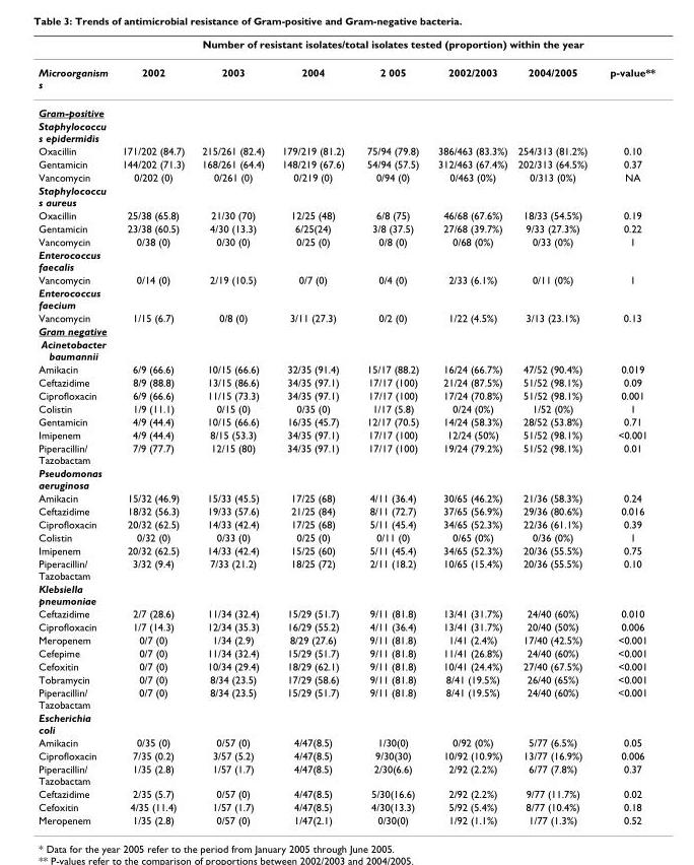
<table><thead><tr><td rowspan="2">Microorganism s</td><td colspan="7">Number of resistant isolates/total isolates tested (proportion) within the year</td></tr><tr><td>2002</td><td>2003</td><td>2004</td><td>2 005</td><td>2002/2003</td><td>2004/2005</td><td>p-value**</td></tr></thead><tbody><tr><td colspan="8">Gram-positive</td></tr><tr><td colspan="8">Staphylococcu s epidermidis</td></tr><tr><td>Oxacillin</td><td>171/202 (84.7)</td><td>215/261 (82.4)</td><td>179/219 (81.2)</td><td>75/94 (79.8)</td><td>386/463 (83.3%)</td><td>254/313 (81.2%)</td><td>0.10</td></tr><tr><td>Gentamicin</td><td>144/202 (71.3)</td><td>168/261 (64.4)</td><td>148/219 (67.6)</td><td>54/94 (57.5)</td><td>312/463 (67.4%)</td><td>202/313 (64.5%)</td><td>0.37</td></tr><tr><td>Vancomycin</td><td>0/202 (0)</td><td>0/261 (0)</td><td>0/219 (0)</td><td>0/94 (0)</td><td>0/463 (0%)</td><td>0/313 (0%)</td><td>NA</td></tr><tr><td colspan="8">Staphylococcu s aureus</td></tr><tr><td>Oxacillin</td><td>25/38 (65.8)</td><td>21/30 (70)</td><td>12/25 (48)</td><td>6/8 (75)</td><td>46/68 (67.6%)</td><td>18/33 (54.5%)</td><td>0.19</td></tr><tr><td>Gentamicin</td><td>23/38 (60.5)</td><td>4/30 (13.3)</td><td>6/25(24)</td><td>3/8 (37.5)</td><td>27/68 (39.7%)</td><td>9/33 (27.3%)</td><td>0.22</td></tr><tr><td>Vancomycin</td><td>0/38 (0)</td><td>0/30 (0)</td><td>0/25 (0)</td><td>0/8 (0)</td><td>0/68 (0%)</td><td>0/33 (0%)</td><td>1</td></tr><tr><td colspan="8">Enterococcus faecalis</td></tr><tr><td>Vancomycin</td><td>0/14 (0)</td><td>2/19 (10.5)</td><td>0/7 (0)</td><td>0/4 (0)</td><td>2/33 (6.1%)</td><td>0/11 (0%)</td><td>1</td></tr><tr><td colspan="8">Enterococcus faecium</td></tr><tr><td>Vancomycin</td><td>1/15 (6.7)</td><td>0/8 (0)</td><td>3/11 (27.3)</td><td>0/2 (0)</td><td>1/22 (4.5%)</td><td>3/13 (23.1%)</td><td>0.13</td></tr><tr><td colspan="8">Gram negative</td></tr><tr><td colspan="8">Acinetobacter baumannii</td></tr><tr><td>Amikacin</td><td>6/9 (66.6)</td><td>10/15 (66.6)</td><td>32/35 (91.4)</td><td>15/17 (88.2)</td><td>16/24 (66.7%)</td><td>47/52 (90.4%)</td><td>0.019</td></tr><tr><td>Ceftazidime</td><td>8/9 (88.8)</td><td>13/15 (86.6)</td><td>34/35 (97.1)</td><td>17/17 (100)</td><td>21/24 (87.5%)</td><td>51/52 (98.1%)</td><td>0.09</td></tr><tr><td>Ciprofloxacin</td><td>6/9 (66.6)</td><td>11/15 (73.3)</td><td>34/35 (97.1)</td><td>17/17 (100)</td><td>17/24 (70.8%)</td><td>51/52 (98.1%)</td><td>0.001</td></tr><tr><td>Colistin</td><td>1/9 (11.1)</td><td>0/15 (0)</td><td>0/35 (0)</td><td>1/17 (5.8)</td><td>0/24 (0%)</td><td>1/52 (0%)</td><td>1</td></tr><tr><td>Gentamicin</td><td>4/9 (44.4)</td><td>10/15 (66.6)</td><td>16/35 (45.7)</td><td>12/17 (70.5)</td><td>14/24 (58.3%)</td><td>28/52 (53.8%)</td><td>0.71</td></tr><tr><td>Imipenem</td><td>4/9 (44.4)</td><td>8/15 (53.3)</td><td>34/35 (97.1)</td><td>17/17 (100)</td><td>12/24 (50%)</td><td>51/52 (98.1%)</td><td>&lt;0.001</td></tr><tr><td>Piperacillin/ Tazobactam</td><td>7/9 (77.7)</td><td>12/15 (80)</td><td>34/35 (97.1)</td><td>17/17 (100)</td><td>19/24 (79.2%)</td><td>51/52 (98.1%)</td><td>0.01</td></tr><tr><td colspan="8">Pseudomonas aeruginosa</td></tr><tr><td>Amikacin</td><td>15/32 (46.9)</td><td>15/33 (45.5)</td><td>17/25 (68)</td><td>4/11 (36.4)</td><td>30/65 (46.2%)</td><td>21/36 (58.3%)</td><td>0.24</td></tr><tr><td>Ceftazidime</td><td>18/32 (56.3)</td><td>19/33 (57.6)</td><td>21/25 (84)</td><td>8/11 (72.7)</td><td>37/65 (56.9%)</td><td>29/36 (80.6%)</td><td>0.016</td></tr><tr><td>Ciprofloxacin</td><td>20/32 (62.5)</td><td>14/33 (42.4)</td><td>17/25 (68)</td><td>5/11 (45.4)</td><td>34/65 (52.3%)</td><td>22/36 (61.1%)</td><td>0.39</td></tr><tr><td>Colistin</td><td>0/32 (0)</td><td>0/33 (0)</td><td>0/25 (0)</td><td>0/11 (0)</td><td>0/65 (0%)</td><td>0/36 (0%)</td><td>1</td></tr><tr><td>Imipenem</td><td>20/32 (62.5)</td><td>14/33 (42.4)</td><td>15/25 (60)</td><td>5/11 (45.4)</td><td>34/65 (52.3%)</td><td>20/36 (55.5%)</td><td>0.75</td></tr><tr><td>Piperacillin/ Tazobactam</td><td>3/32 (9.4)</td><td>7/33 (21.2)</td><td>18/25 (72)</td><td>2/11 (18.2)</td><td>10/65 (15.4%)</td><td>20/36 (55.5%)</td><td>0.10</td></tr><tr><td colspan="8">Klebsiella pneumoniae</td></tr><tr><td>Ceftazidime</td><td>2/7 (28.6)</td><td>11/34 (32.4)</td><td>15/29 (51.7)</td><td>9/11 (81.8)</td><td>13/41 (31.7%)</td><td>24/40 (60%)</td><td>0.010</td></tr><tr><td>Ciprofloxacin</td><td>1/7 (14.3)</td><td>12/34 (35.3)</td><td>16/29 (55.2)</td><td>4/11 (36.4)</td><td>13/41 (31.7%)</td><td>20/40 (50%)</td><td>0.006</td></tr><tr><td>Meropenem</td><td>0/7 (0)</td><td>1/34 (2.9)</td><td>8/29 (27.6)</td><td>9/11 (81.8)</td><td>1/41 (2.4%)</td><td>17/40 (42.5%)</td><td>&lt;0.001</td></tr><tr><td>Cefepime</td><td>0/7 (0)</td><td>11/34 (32.4)</td><td>15/29 (51.7)</td><td>9/11 (81.8)</td><td>11/41 (26.8%)</td><td>24/40 (60%)</td><td>&lt;0.001</td></tr><tr><td>Cefoxitin</td><td>0/7 (0)</td><td>10/34 (29.4)</td><td>18/29 (62.1)</td><td>9/11 (81.8)</td><td>10/41 (24.4%)</td><td>27/40 (67.5%)</td><td>&lt;0.001</td></tr><tr><td>Tobramycin</td><td>0/7 (0)</td><td>8/34 (23.5)</td><td>17/29 (58.6)</td><td>9/11 (81.8)</td><td>8/41 (19.5%)</td><td>26/40 (65%)</td><td>&lt;0.001</td></tr><tr><td>Piperacillin/ Tazobactam</td><td>0/7 (0)</td><td>8/34 (23.5)</td><td>15/29 (51.7)</td><td>9/11 (81.8)</td><td>8/41 (19.5%)</td><td>24/40 (60%)</td><td>&lt;0.001</td></tr><tr><td colspan="8">Escherichia coli</td></tr><tr><td>Amikacin</td><td>0/35 (0)</td><td>0/57 (0)</td><td>4/47(8.5)</td><td>1/30(0)</td><td>0/92 (0%)</td><td>5/77 (6.5%)</td><td>0.05</td></tr><tr><td>Ciprofloxacin</td><td>7/35 (0.2)</td><td>3/57 (5.2)</td><td>4/47(8.5)</td><td>9/30(30)</td><td>10/92 (10.9%)</td><td>13/77 (16.9%)</td><td>0.006</td></tr><tr><td>Piperacillin/ Tazobactam</td><td>1/35 (2.8)</td><td>1/57 (1.7)</td><td>4/47(8.5)</td><td>2/30(6.6)</td><td>2/92 (2.2%)</td><td>6/77 (7.8%)</td><td>0.37</td></tr><tr><td>Ceftazidime</td><td>2/35 (5.7)</td><td>0/57 (0)</td><td>4/47(8.5)</td><td>5/30(16.6)</td><td>2/92 (2.2%)</td><td>9/77 (11.7%)</td><td>0.02</td></tr><tr><td>Cefoxitin</td><td>4/35 (11.4)</td><td>1/57 (1.7)</td><td>4/47(8.5)</td><td>4/30(13.3)</td><td>5/92 (5.4%)</td><td>8/77 (10.4%)</td><td>0.18</td></tr><tr><td>Meropenem</td><td>1/35 (2.8)</td><td>0/57 (0)</td><td>1/47(2.1)</td><td>0/30(0)</td><td>1/92 (1.1%)</td><td>1/77 (1.3%)</td><td>0.52</td></tr></tbody></table>